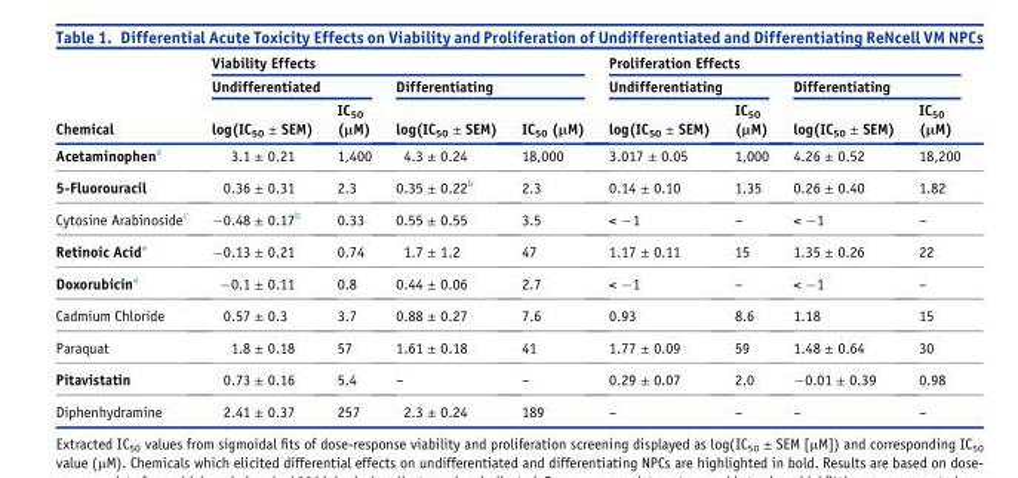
<table><thead><tr><td rowspan="3">Chemical</td><td colspan="4">Viability Effects</td><td colspan="4">Proliferation Effects</td></tr><tr><td colspan="2">Undifferentiated</td><td colspan="2">Differentiating</td><td colspan="2">Undifferentiating</td><td colspan="2">Differentiating</td></tr><tr><td>log(IC<sub>50</sub> ± SEM)</td><td>IC<sub>50</sub> (μM)</td><td>log(IC<sub>50</sub> ± SEM)</td><td>IC<sub>50</sub> (μM)</td><td>log(IC<sub>50</sub> ± SEM)</td><td>IC<sub>50</sub> (μM)</td><td>log(IC<sub>50</sub> ± SEM)</td><td>IC<sub>50</sub> (μM)</td></tr></thead><tbody><tr><td>Acetaminophen<sup>a</sup></td><td>3.1 ± 0.21</td><td>1,400</td><td>4.3 ± 0.24</td><td>18,000</td><td>3.017 ± 0.05</td><td>1,000</td><td>4.26 ± 0.52</td><td>18,200</td></tr><tr><td>5-Fluorouracil</td><td>0.36 ± 0.31</td><td>2.3</td><td>0.35 ± 0.22<sup>b</sup></td><td>2.3</td><td>0.14 ± 0.10</td><td>1.35</td><td>0.26 ± 0.40</td><td>1.82</td></tr><tr><td>Cytosine Arabinoside<sup>c</sup></td><td>−0.48 ± 0.17<sup>b</sup></td><td>0.33</td><td>0.55 ± 0.55</td><td>3.5</td><td>&lt; −1</td><td>–</td><td>&lt; −1</td><td>–</td></tr><tr><td>Retinoic Acid<sup>a</sup></td><td>−0.13 ± 0.21</td><td>0.74</td><td>1.7 ± 1.2</td><td>47</td><td>1.17 ± 0.11</td><td>15</td><td>1.35 ± 0.26</td><td>22</td></tr><tr><td>Doxorubicin<sup>a</sup></td><td>−0.1 ± 0.11</td><td>0.8</td><td>0.44 ± 0.06</td><td>2.7</td><td>&lt; −1</td><td>–</td><td>&lt; −1</td><td>–</td></tr><tr><td>Cadmium Chloride</td><td>0.57 ± 0.3</td><td>3.7</td><td>0.88 ± 0.27</td><td>7.6</td><td>0.93</td><td>8.6</td><td>1.18</td><td>15</td></tr><tr><td>Paraquat</td><td>1.8 ± 0.18</td><td>57</td><td>1.61 ± 0.18</td><td>41</td><td>1.77 ± 0.09</td><td>59</td><td>1.48 ± 0.64</td><td>30</td></tr><tr><td>Pitavistatin</td><td>0.73 ± 0.16</td><td>5.4</td><td>–</td><td>–</td><td>0.29 ± 0.07</td><td>2.0</td><td>−0.01 ± 0.39</td><td>0.98</td></tr><tr><td>Diphenhydramine</td><td>2.41 ± 0.37</td><td>257</td><td>2.3 ± 0.24</td><td>189</td><td>–</td><td>–</td><td>–</td><td>–</td></tr></tbody></table>